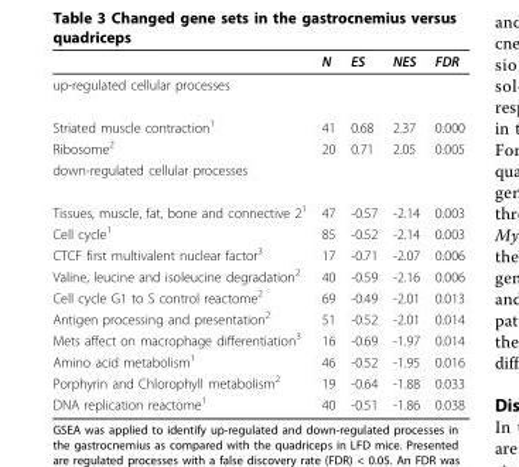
<table><thead><tr><td></td><td>N</td><td>ES</td><td>NES</td><td>FDR</td></tr></thead><tbody><tr><td colspan="5">up-regulated cellular processes</td></tr><tr><td>Striated muscle contraction<sup>1</sup></td><td>41</td><td>0.68</td><td>2.37</td><td>0.000</td></tr><tr><td>Ribosome<sup>2</sup></td><td>20</td><td>0.71</td><td>2.05</td><td>0.005</td></tr><tr><td colspan="5">down-regulated cellular processes</td></tr><tr><td>Tissues, muscle, fat, bone and connective 2<sup>1</sup></td><td>47</td><td>-0.57</td><td>-2.14</td><td>0.003</td></tr><tr><td>Cell cycle<sup>1</sup></td><td>85</td><td>-0.52</td><td>-2.14</td><td>0.003</td></tr><tr><td>CTCF first multivalent nuclear factor<sup>3</sup></td><td>17</td><td>-0.71</td><td>-2.07</td><td>0.006</td></tr><tr><td>Valine, leucine and isoleucine degradation<sup>2</sup></td><td>40</td><td>-0.59</td><td>-2.16</td><td>0.006</td></tr><tr><td>Cell cycle G1 to S control reactome<sup>2</sup></td><td>69</td><td>-0.49</td><td>-2.01</td><td>0.013</td></tr><tr><td>Antigen processing and presentation<sup>2</sup></td><td>51</td><td>-0.52</td><td>-2.01</td><td>0.014</td></tr><tr><td>Mets affect on macrophage differentiation<sup>3</sup></td><td>16</td><td>-0.69</td><td>-1.97</td><td>0.014</td></tr><tr><td>Amino acid metabolism<sup>1</sup></td><td>46</td><td>-0.52</td><td>-1.95</td><td>0.016</td></tr><tr><td>Porphyrin and Chlorophyll metabolism<sup>2</sup></td><td>19</td><td>-0.64</td><td>-1.88</td><td>0.033</td></tr><tr><td>DNA replication reactome<sup>1</sup></td><td>40</td><td>-0.51</td><td>-1.86</td><td>0.038</td></tr></tbody></table>